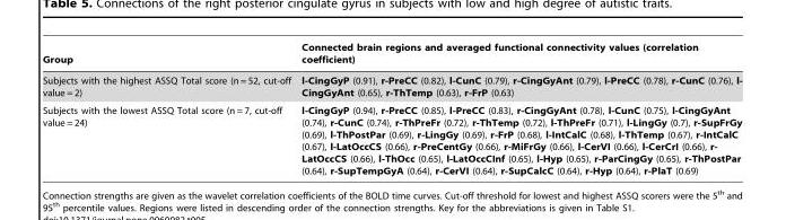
<table><thead><tr><td>Group</td><td>Connected brain regions and averaged functional connectivity values (correlation coefficient)</td></tr></thead><tbody><tr><td>Subjects with the highest ASSQ Total score (n = 52, cut-off value = 2)</td><td>l-CingGyP (0.91), r-PreCC (0.82), l-CunC (0.79), r-CingGyAnt (0.79), l-PreCC (0.78), r-CunC (0.76), l- CingGyAnt (0.65), r-ThTemp (0.63), r-FrP (0.63)</td></tr><tr><td>Subjects with the lowest ASSQ Total score (n = 7, cut-off value = 24)</td><td>l-CingGyP (0.94), r-PreCC (0.85), l-PreCC (0.83), r-CingGyAnt (0.78), l-CunC (0.75), l-CingGyAnt (0.74), r-CunC (0.74), r-ThPreFr (0.72), r-ThTemp (0.72), l-ThPreFr (0.71), l-LingGy (0.7), r-SupFrGy (0.69), l-ThPostPar (0.69), r-LingGy (0.69), r-FrP (0.68), l-IntCalC (0.68), l-ThTemp (0.67), r-IntCalC (0.67), l-LatOccCS (0.66), r-PreCentGy (0.66), r-MiFrGy (0.66), l-CerVI (0.66), l-CerCrI (0.66), r- LatOccCS (0.66), l-ThOcc (0.65), l-LatOccCInf (0.65), l-Hyp (0.65), r-ParCingGy (0.65), r-ThPostPar (0.64), r-SupTempGyA (0.64), r-CerVI (0.64), r-SupCalcC (0.64), r-Hyp (0.64), r-PlaT (0.69)</td></tr></tbody></table>